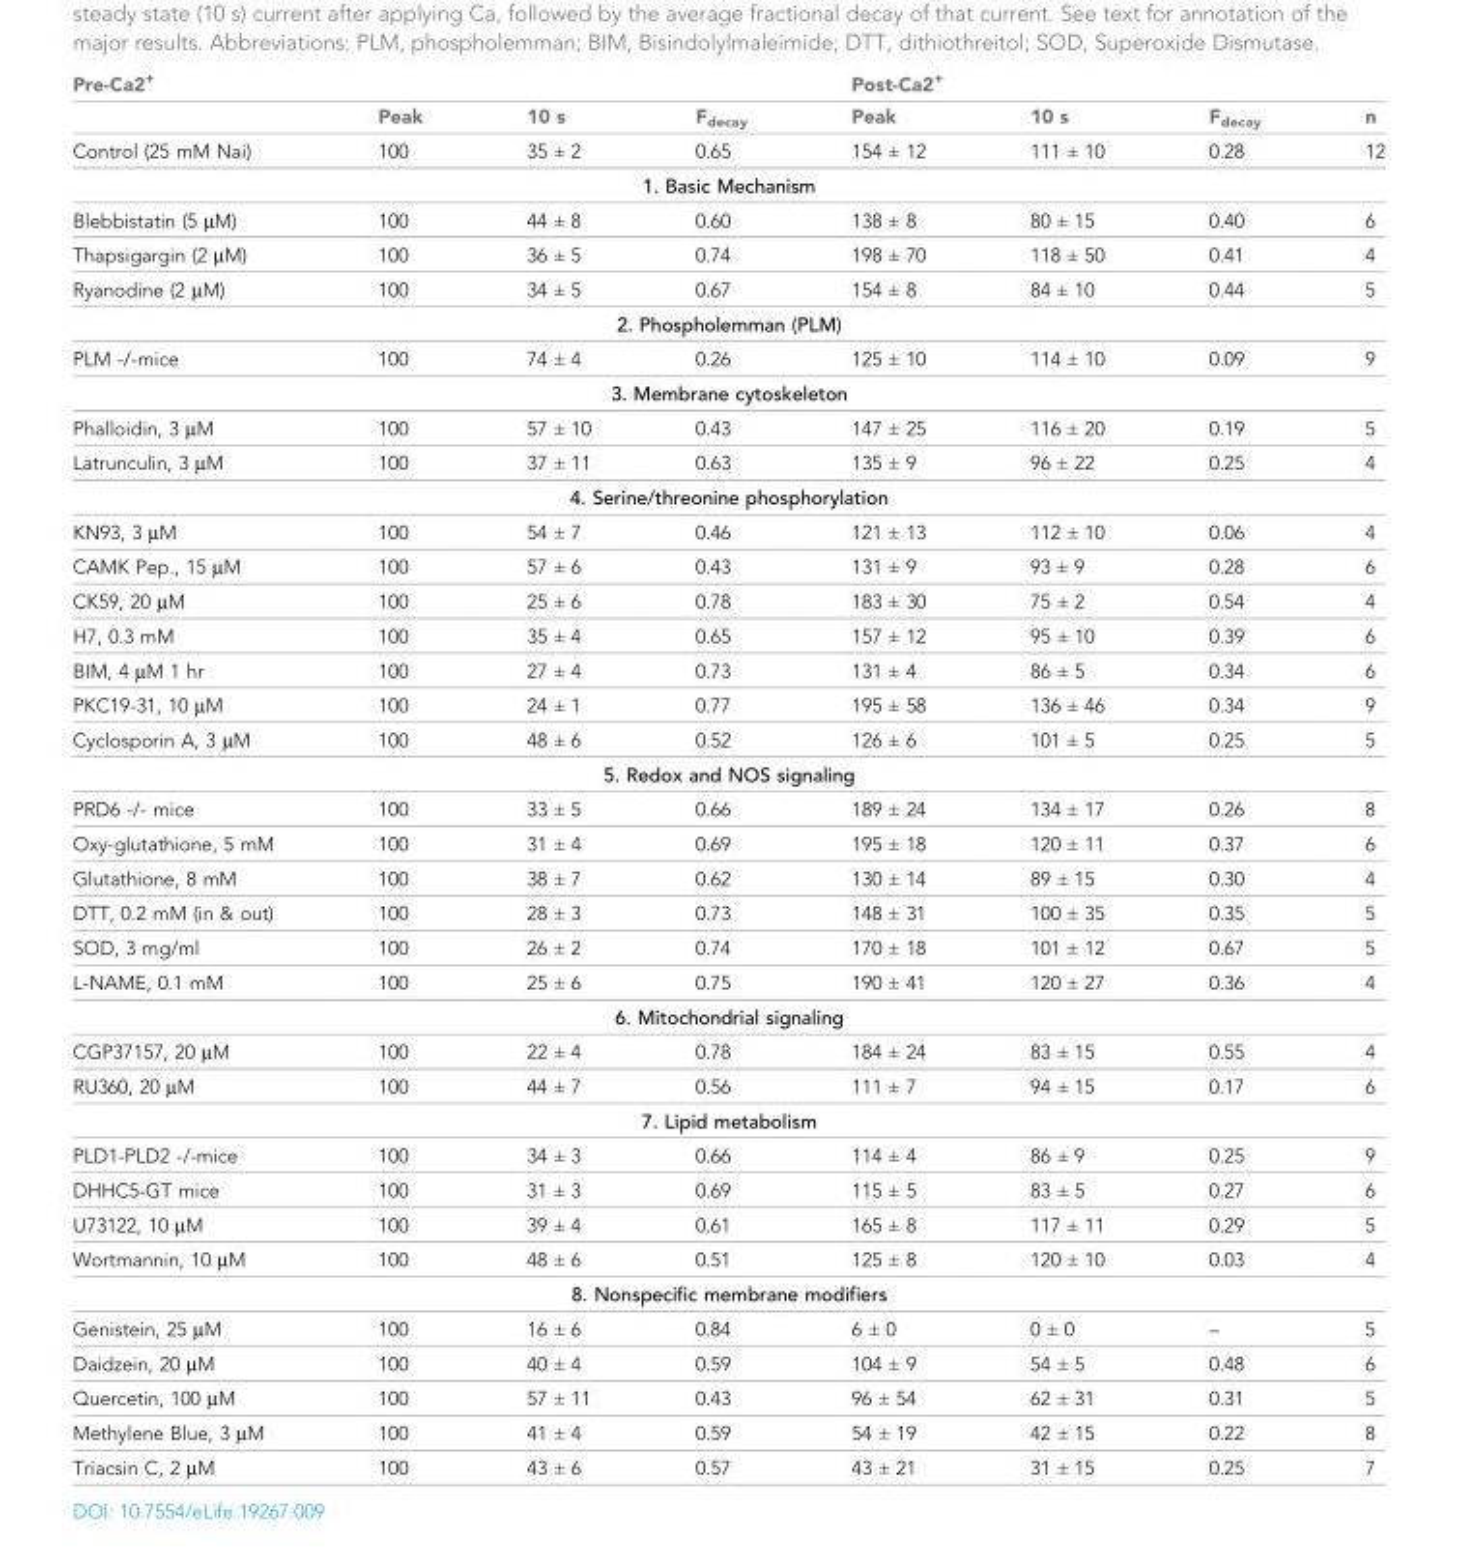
<table><thead><tr><td colspan="4">Pre-Ca2<sup>+</sup></td><td colspan="4">Post-Ca2<sup>+</sup></td></tr><tr><td></td><td>Peak</td><td>10 s</td><td>F<sub>decay</sub></td><td>Peak</td><td>10 s</td><td>F<sub>decay</sub></td><td>n</td></tr></thead><tbody><tr><td>Control (25 mM Nai)</td><td>100</td><td>35 ± 2</td><td>0.65</td><td>154 ± 12</td><td>111 ± 10</td><td>0.28</td><td>12</td></tr><tr><td colspan="8">1. Basic Mechanism</td></tr><tr><td>Blebbistatin (5 μM)</td><td>100</td><td>44 ± 8</td><td>0.60</td><td>138 ± 8</td><td>80 ± 15</td><td>0.40</td><td>6</td></tr><tr><td>Thapsigargin (2 μM)</td><td>100</td><td>36 ± 5</td><td>0.74</td><td>198 ± 70</td><td>118 ± 50</td><td>0.41</td><td>4</td></tr><tr><td>Ryanodine (2 μM)</td><td>100</td><td>34 ± 5</td><td>0.67</td><td>154 ± 8</td><td>84 ± 10</td><td>0.44</td><td>5</td></tr><tr><td colspan="8">2. Phospholemman (PLM)</td></tr><tr><td>PLM -/-mice</td><td>100</td><td>74 ± 4</td><td>0.26</td><td>125 ± 10</td><td>114 ± 10</td><td>0.09</td><td>9</td></tr><tr><td colspan="8">3. Membrane cytoskeleton</td></tr><tr><td>Phalloidin, 3 μM</td><td>100</td><td>57 ± 10</td><td>0.43</td><td>147 ± 25</td><td>116 ± 20</td><td>0.19</td><td>5</td></tr><tr><td>Latrunculin, 3 μM</td><td>100</td><td>37 ± 11</td><td>0.63</td><td>135 ± 9</td><td>96 ± 22</td><td>0.25</td><td>4</td></tr><tr><td colspan="8">4. Serine/threonine phosphorylation</td></tr><tr><td>KN93, 3 μM</td><td>100</td><td>54 ± 7</td><td>0.46</td><td>121 ± 13</td><td>112 ± 10</td><td>0.06</td><td>4</td></tr><tr><td>CAMK Pep., 15 μM</td><td>100</td><td>57 ± 6</td><td>0.43</td><td>131 ± 9</td><td>93 ± 9</td><td>0.28</td><td>6</td></tr><tr><td>CK59, 20 µM</td><td>100</td><td>25 ± 6</td><td>0.78</td><td>183 ± 30</td><td>75 ± 2</td><td>0.54</td><td>4</td></tr><tr><td>H7, 0.3 mM</td><td>100</td><td>35 ± 4</td><td>0.65</td><td>157 ± 12</td><td>95 ± 10</td><td>0.39</td><td>6</td></tr><tr><td>BIM, 4 μM 1 hr</td><td>100</td><td>27 ± 4</td><td>0.73</td><td>131 ± 4</td><td>86 ± 5</td><td>0.34</td><td>6</td></tr><tr><td>PKC19-31, 10 μM</td><td>100</td><td>24 ± 1</td><td>0.77</td><td>195 ± 58</td><td>136 ± 46</td><td>0.34</td><td>9</td></tr><tr><td>Cyclosporin A, 3 µM</td><td>100</td><td>48 ± 6</td><td>0.52</td><td>126 ± 6</td><td>101 ± 5</td><td>0.25</td><td>5</td></tr><tr><td colspan="8">5. Redox and NOS signaling</td></tr><tr><td>PRD6 -/- mice</td><td>100</td><td>33 ± 5</td><td>0.66</td><td>189 ± 24</td><td>134 ± 17</td><td>0.26</td><td>8</td></tr><tr><td>Oxy-glutathione, 5 mM</td><td>100</td><td>31 ± 4</td><td>0.69</td><td>195 ± 18</td><td>120 ± 11</td><td>0.37</td><td>6</td></tr><tr><td>Glutathione, 8 mM</td><td>100</td><td>38 ± 7</td><td>0.62</td><td>130 ± 14</td><td>89 ± 15</td><td>0.30</td><td>4</td></tr><tr><td>DTT, 0.2 mM (in &amp; out)</td><td>100</td><td>28 ± 3</td><td>0.73</td><td>148 ± 31</td><td>100 ± 35</td><td>0.35</td><td>5</td></tr><tr><td>SOD, 3 mg/ml</td><td>100</td><td>26 ± 2</td><td>0.74</td><td>170 ± 18</td><td>101 ± 12</td><td>0.67</td><td>5</td></tr><tr><td>L-NAME, 0.1 mM</td><td>100</td><td>25 ± 6</td><td>0.75</td><td>190 ± 41</td><td>120 ± 27</td><td>0.36</td><td>4</td></tr><tr><td colspan="8">6. Mitochondrial signaling</td></tr><tr><td>CGP37157, 20 μM</td><td>100</td><td>22 ± 4</td><td>0.78</td><td>184 ± 24</td><td>83 ± 15</td><td>0.55</td><td>4</td></tr><tr><td>RU360, 20 µM</td><td>100</td><td>44 ± 7</td><td>0.56</td><td>111 ± 7</td><td>94 ± 15</td><td>0.17</td><td>6</td></tr><tr><td colspan="8">7. Lipid metabolism</td></tr><tr><td>PLD1-PLD2 -/-mice</td><td>100</td><td>34 ± 3</td><td>0.66</td><td>114 ± 4</td><td>86 ± 9</td><td>0.25</td><td>9</td></tr><tr><td>DHHC5-GT mice</td><td>100</td><td>31 ± 3</td><td>0.69</td><td>115 ± 5</td><td>83 ± 5</td><td>0.27</td><td>6</td></tr><tr><td>U73122, 10 μM</td><td>100</td><td>39 ± 4</td><td>0.61</td><td>165 ± 8</td><td>117 ± 11</td><td>0.29</td><td>5</td></tr><tr><td>Wortmannin, 10 μM</td><td>100</td><td>48 ± 6</td><td>0.51</td><td>125 ± 8</td><td>120 ± 10</td><td>0.03</td><td>4</td></tr><tr><td colspan="8">8. Nonspecific membrane modifiers</td></tr><tr><td>Genistein, 25 μM</td><td>100</td><td>16 ± 6</td><td>0.84</td><td>6 ± 0</td><td>0 ± 0</td><td>–</td><td>5</td></tr><tr><td>Daidzein, 20 µM</td><td>100</td><td>40 ± 4</td><td>0.59</td><td>104 ± 9</td><td>54 ± 5</td><td>0.48</td><td>6</td></tr><tr><td>Quercetin, 100 μM</td><td>100</td><td>57 ± 11</td><td>0.43</td><td>96 ± 54</td><td>62 ± 31</td><td>0.31</td><td>5</td></tr><tr><td>Methylene Blue, 3 μM</td><td>100</td><td>41 ± 4</td><td>0.59</td><td>54 ± 19</td><td>42 ± 15</td><td>0.22</td><td>8</td></tr><tr><td>Triacsin C, 2 μM</td><td>100</td><td>43 ± 6</td><td>0.57</td><td>43 ± 21</td><td>31 ± 15</td><td>0.25</td><td>7</td></tr></tbody></table>